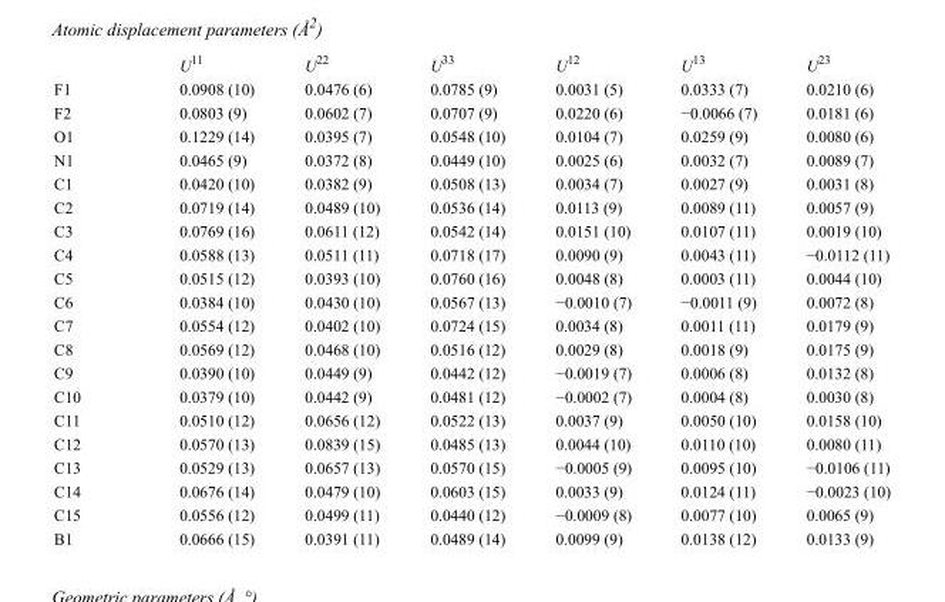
<table><thead><tr><td></td><td>U<sup>11</sup></td><td>U<sup>22</sup></td><td>U<sup>33</sup></td><td>U<sup>12</sup></td><td>U<sup>13</sup></td><td>U<sup>23</sup></td></tr></thead><tbody><tr><td>F1</td><td>0.0908 (10)</td><td>0.0476 (6)</td><td>0.0785 (9)</td><td>0.0031 (5)</td><td>0.0333 (7)</td><td>0.0210 (6)</td></tr><tr><td>F2</td><td>0.0803 (9)</td><td>0.0602 (7)</td><td>0.0707 (9)</td><td>0.0220 (6)</td><td>−0.0066 (7)</td><td>0.0181 (6)</td></tr><tr><td>O1</td><td>0.1229 (14)</td><td>0.0395 (7)</td><td>0.0548 (10)</td><td>0.0104 (7)</td><td>0.0259 (9)</td><td>0.0080 (6)</td></tr><tr><td>N1</td><td>0.0465 (9)</td><td>0.0372 (8)</td><td>0.0449 (10)</td><td>0.0025 (6)</td><td>0.0032 (7)</td><td>0.0089 (7)</td></tr><tr><td>C1</td><td>0.0420 (10)</td><td>0.0382 (9)</td><td>0.0508 (13)</td><td>0.0034 (7)</td><td>0.0027 (9)</td><td>0.0031 (8)</td></tr><tr><td>C2</td><td>0.0719 (14)</td><td>0.0489 (10)</td><td>0.0536 (14)</td><td>0.0113 (9)</td><td>0.0089 (11)</td><td>0.0057 (9)</td></tr><tr><td>C3</td><td>0.0769 (16)</td><td>0.0611 (12)</td><td>0.0542 (14)</td><td>0.0151 (10)</td><td>0.0107 (11)</td><td>0.0019 (10)</td></tr><tr><td>C4</td><td>0.0588 (13)</td><td>0.0511 (11)</td><td>0.0718 (17)</td><td>0.0090 (9)</td><td>0.0043 (11)</td><td>−0.0112 (11)</td></tr><tr><td>C5</td><td>0.0515 (12)</td><td>0.0393 (10)</td><td>0.0760 (16)</td><td>0.0048 (8)</td><td>0.0003 (11)</td><td>0.0044 (10)</td></tr><tr><td>C6</td><td>0.0384 (10)</td><td>0.0430 (10)</td><td>0.0567 (13)</td><td>−0.0010 (7)</td><td>−0.0011 (9)</td><td>0.0072 (8)</td></tr><tr><td>C7</td><td>0.0554 (12)</td><td>0.0402 (10)</td><td>0.0724 (15)</td><td>0.0034 (8)</td><td>0.0011 (11)</td><td>0.0179 (9)</td></tr><tr><td>C8</td><td>0.0569 (12)</td><td>0.0468 (10)</td><td>0.0516 (12)</td><td>0.0029 (8)</td><td>0.0018 (9)</td><td>0.0175 (9)</td></tr><tr><td>C9</td><td>0.0390 (10)</td><td>0.0449 (9)</td><td>0.0442 (12)</td><td>−0.0019 (7)</td><td>0.0006 (8)</td><td>0.0132 (8)</td></tr><tr><td>C10</td><td>0.0379 (10)</td><td>0.0442 (9)</td><td>0.0481 (12)</td><td>−0.0002 (7)</td><td>0.0004 (8)</td><td>0.0030 (8)</td></tr><tr><td>C11</td><td>0.0510 (12)</td><td>0.0656 (12)</td><td>0.0522 (13)</td><td>0.0037 (9)</td><td>0.0050 (10)</td><td>0.0158 (10)</td></tr><tr><td>C12</td><td>0.0570 (13)</td><td>0.0839 (15)</td><td>0.0485 (13)</td><td>0.0044 (10)</td><td>0.0110 (10)</td><td>0.0080 (11)</td></tr><tr><td>C13</td><td>0.0529 (13)</td><td>0.0657 (13)</td><td>0.0570 (15)</td><td>−0.0005 (9)</td><td>0.0095 (10)</td><td>−0.0106 (11)</td></tr><tr><td>C14</td><td>0.0676 (14)</td><td>0.0479 (10)</td><td>0.0603 (15)</td><td>0.0033 (9)</td><td>0.0124 (11)</td><td>−0.0023 (10)</td></tr><tr><td>C15</td><td>0.0556 (12)</td><td>0.0499 (11)</td><td>0.0440 (12)</td><td>−0.0009 (8)</td><td>0.0077 (10)</td><td>0.0065 (9)</td></tr><tr><td>B1</td><td>0.0666 (15)</td><td>0.0391 (11)</td><td>0.0489 (14)</td><td>0.0099 (9)</td><td>0.0138 (12)</td><td>0.0133 (9)</td></tr></tbody></table>